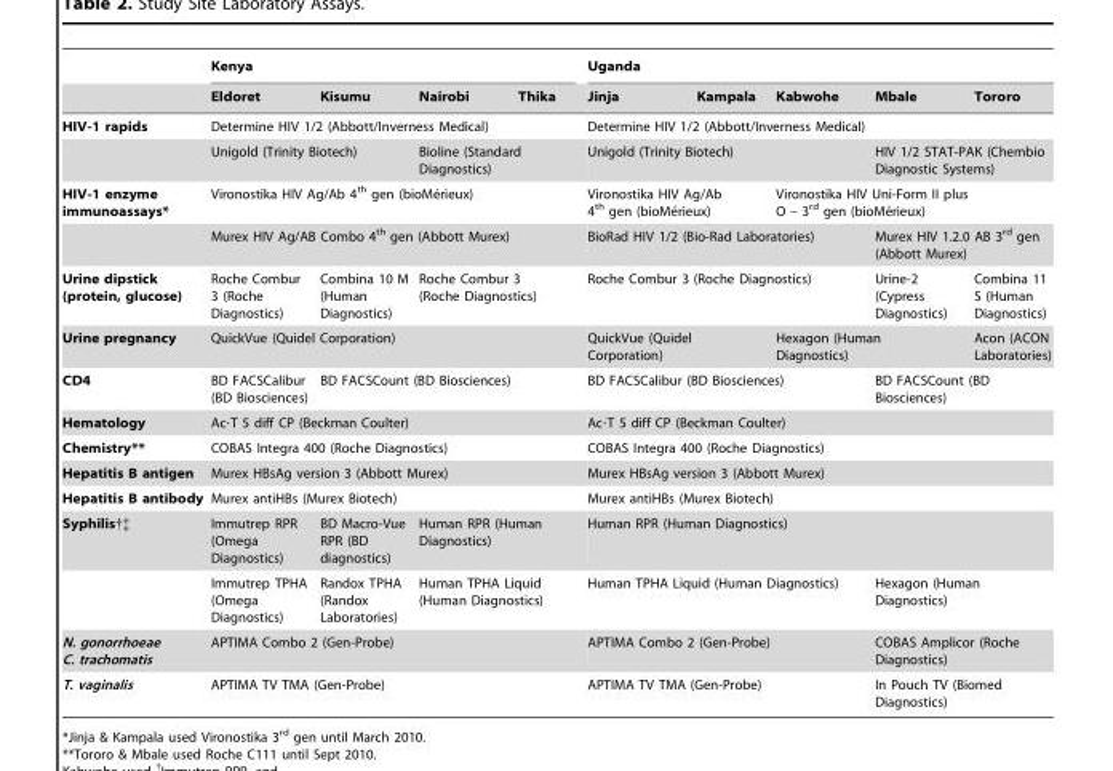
<table><thead><tr><td rowspan="2"></td><td colspan="4">Kenya</td><td colspan="5">Uganda</td></tr><tr><td>Eldoret</td><td>Kisumu</td><td>Nairobi</td><td>Thika</td><td>Jinja</td><td>Kampala</td><td>Kabwohe</td><td>Mbale</td><td>Tororo</td></tr></thead><tbody><tr><td rowspan="2">HIV-1 rapids</td><td colspan="4">Determine HIV 1/2 (Abbott/Inverness Medical)</td><td colspan="5">Determine HIV 1/2 (Abbott/Inverness Medical)</td></tr><tr><td colspan="2">Unigold (Trinity Biotech)</td><td colspan="2">Bioline (Standard Diagnostics)</td><td colspan="3">Unigold (Trinity Biotech)</td><td colspan="2">HIV 1/2 STAT-PAK (Chembio Diagnostic Systems)</td></tr><tr><td rowspan="2">HIV-1 enzyme immunoassays*</td><td colspan="4">Vironostika HIV Ag/Ab 4th gen (bioMe´rieux)</td><td colspan="2">Vironostika HIV Ag/Ab 4th gen (bioMe´rieux)</td><td colspan="3">Vironostika HIV Uni-Form II plus O – 3rd gen (bioMe´rieux)</td></tr><tr><td colspan="4">Murex HIV Ag/AB Combo 4<sup>th</sup> gen (Abbott Murex)</td><td colspan="3">BioRad HIV 1/2 (Bio-Rad Laboratories)</td><td colspan="2">Murex HIV 1.2.0 AB 3<sup>rd</sup> gen (Abbott Murex)</td></tr><tr><td>Urine dipstick (protein, glucose)</td><td>Roche Combur 3 (Roche Diagnostics)</td><td>Combina 10 M (Human Diagnostics)</td><td colspan="2">Roche Combur 3 (Roche Diagnostics)</td><td colspan="3">Roche Combur 3 (Roche Diagnostics)</td><td>Urine-2 (Cypress Diagnostics)</td><td>Combina 11 S (Human Diagnostics)</td></tr><tr><td>Urine pregnancy</td><td colspan="4">QuickVue (Quidel Corporation)</td><td colspan="2">QuickVue (Quidel Corporation)</td><td colspan="2">Hexagon (Human Diagnostics)</td><td>Acon (ACON Laboratories)</td></tr><tr><td>CD4</td><td>BD FACSCalibur (BD Biosciences)</td><td colspan="3">BD FACSCount (BD Biosciences)</td><td colspan="3">BD FACSCalibur (BD Biosciences)</td><td colspan="2">BD FACSCount (BD Biosciences)</td></tr><tr><td>Hematology</td><td colspan="4">Ac·T 5 diff CP (Beckman Coulter)</td><td colspan="5">Ac·T 5 diff CP (Beckman Coulter)</td></tr><tr><td>Chemistry**</td><td colspan="4">COBAS Integra 400 (Roche Diagnostics)</td><td colspan="5">COBAS Integra 400 (Roche Diagnostics)</td></tr><tr><td>Hepatitis B antigen</td><td colspan="4">Murex HBsAg version 3 (Abbott Murex)</td><td colspan="5">Murex HBsAg version 3 (Abbott Murex)</td></tr><tr><td>Hepatitis B antibody</td><td colspan="4">Murex antiHBs (Murex Biotech)</td><td colspan="5">Murex antiHBs (Murex Biotech)</td></tr><tr><td rowspan="2">Syphilis†‡</td><td>Immutrep RPR (Omega Diagnostics)</td><td>BD Macro-Vue RPR (BD diagnostics)</td><td colspan="2">Human RPR (Human Diagnostics)</td><td colspan="5">Human RPR (Human Diagnostics)</td></tr><tr><td>Immutrep TPHA (Omega Diagnostics)</td><td>Randox TPHA (Randox Laboratories)</td><td colspan="2">Human TPHA Liquid (Human Diagnostics)</td><td colspan="3">Human TPHA Liquid (Human Diagnostics)</td><td colspan="2">Hexagon (Human Diagnostics)</td></tr><tr><td>N. gonorrhoeae C. trachomatis</td><td colspan="4">APTIMA Combo 2 (Gen-Probe)</td><td colspan="3">APTIMA Combo 2 (Gen-Probe)</td><td colspan="2">COBAS Amplicor (Roche Diagnostics)</td></tr><tr><td>T. vaginalis</td><td colspan="4">APTIMA TV TMA (Gen-Probe)</td><td colspan="3">APTIMA TV TMA (Gen-Probe)</td><td colspan="2">In Pouch TV (Biomed Diagnostics)</td></tr></tbody></table>